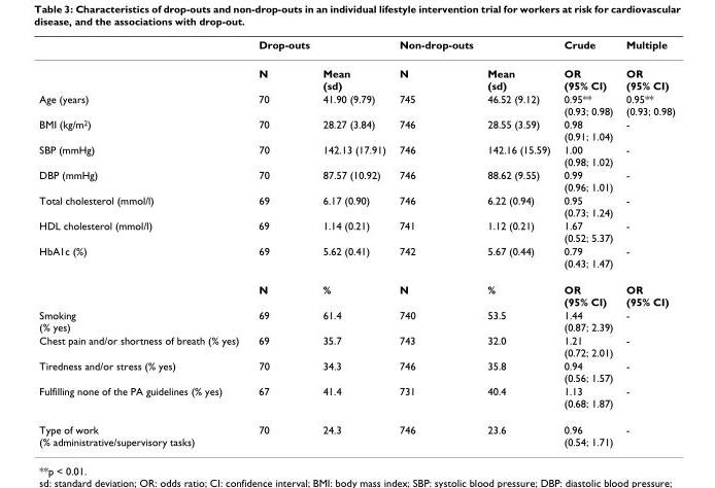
<table><thead><tr><td></td><td>Drop-outs</td><td></td><td>Non-drop-outs</td><td></td><td>Crude</td><td>Multiple</td></tr></thead><tbody><tr><td></td><td>N</td><td>Mean (sd)</td><td>N</td><td>Mean (sd)</td><td>OR (95% CI)</td><td>OR (95% CI)</td></tr><tr><td>Age (years)</td><td>70</td><td>41.90 (9.79)</td><td>745</td><td>46.52 (9.12)</td><td>0.95** (0.93; 0.98)</td><td>0.95** (0.93; 0.98)</td></tr><tr><td>BMI (kg/m<sup>2</sup>)</td><td>70</td><td>28.27 (3.84)</td><td>746</td><td>28.55 (3.59)</td><td>0.98 (0.91; 1.04)</td><td>-</td></tr><tr><td>SBP (mmHg)</td><td>70</td><td>142.13 (17.91)</td><td>746</td><td>142.16 (15.59)</td><td>1.00 (0.98; 1.02)</td><td>-</td></tr><tr><td>DBP (mmHg)</td><td>70</td><td>87.57 (10.92)</td><td>746</td><td>88.62 (9.55)</td><td>0.99 (0.96; 1.01)</td><td>-</td></tr><tr><td>Total cholesterol (mmol/l)</td><td>69</td><td>6.17 (0.90)</td><td>746</td><td>6.22 (0.94)</td><td>0.95 (0.73; 1.24)</td><td>-</td></tr><tr><td>HDL cholesterol (mmol/l)</td><td>69</td><td>1.14 (0.21)</td><td>741</td><td>1.12 (0.21)</td><td>1.67 (0.52; 5.37)</td><td>-</td></tr><tr><td rowspan="2">HbA1c (%)</td><td>69</td><td>5.62 (0.41)</td><td>742</td><td>5.67 (0.44)</td><td>0.79 (0.43; 1.47)</td><td>-</td></tr><tr><td>N</td><td>%</td><td>N</td><td>%</td><td>OR (95% CI)</td><td>OR (95% CI)</td></tr><tr><td>Smoking (% yes)</td><td>69</td><td>61.4</td><td>740</td><td>53.5</td><td>1.44 (0.87; 2.39)</td><td>-</td></tr><tr><td>Chest pain and/or shortness of breath (% yes)</td><td>69</td><td>35.7</td><td>743</td><td>32.0</td><td>1.21 (0.72; 2.01)</td><td>-</td></tr><tr><td>Tiredness and/or stress (% yes)</td><td>70</td><td>34.3</td><td>746</td><td>35.8</td><td>0.94 (0.56; 1.57)</td><td>-</td></tr><tr><td>Fulfilling none of the PA guidelines (% yes)</td><td>67</td><td>41.4</td><td>731</td><td>40.4</td><td>1.13 (0.68; 1.87)</td><td>-</td></tr><tr><td>Type of work (% administrative/supervisory tasks)</td><td>70</td><td>24.3</td><td>746</td><td>23.6</td><td>0.96 (0.54; 1.71)</td><td>-</td></tr></tbody></table>